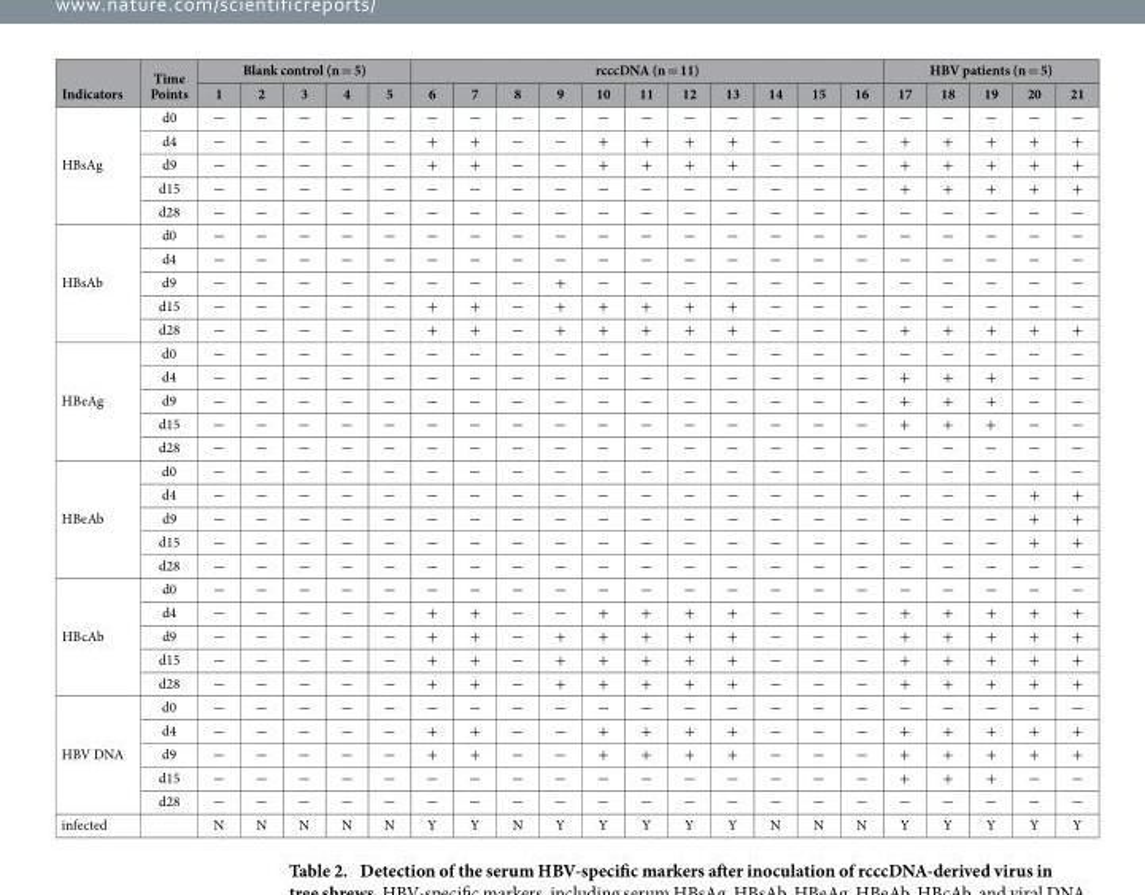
<table><thead><tr><td rowspan="2">Indicators</td><td rowspan="2">Time Points</td><td colspan="5">Blank control (n = 5)</td><td colspan="11">rcccDNA (n = 11)</td><td colspan="5">HBV patients (n = 5)</td></tr><tr><td>1</td><td>2</td><td>3</td><td>4</td><td>5</td><td>6</td><td>7</td><td>8</td><td>9</td><td>10</td><td>11</td><td>12</td><td>13</td><td>14</td><td>15</td><td>16</td><td>17</td><td>18</td><td>19</td><td>20</td><td>21</td></tr></thead><tbody><tr><td rowspan="5">HBsAg</td><td>d0</td><td>−</td><td>−</td><td>−</td><td>−</td><td>−</td><td>−</td><td>−</td><td>−</td><td>−</td><td>−</td><td>−</td><td>−</td><td>−</td><td>−</td><td>−</td><td>−</td><td>−</td><td>−</td><td>−</td><td>−</td><td>−</td></tr><tr><td>d4</td><td>−</td><td>−</td><td>−</td><td>−</td><td>−</td><td>+</td><td>+</td><td>−</td><td>−</td><td>+</td><td>+</td><td>+</td><td>+</td><td>−</td><td>−</td><td>−</td><td>+</td><td>+</td><td>+</td><td>+</td><td>+</td></tr><tr><td>d9</td><td>−</td><td>−</td><td>−</td><td>−</td><td>−</td><td>+</td><td>+</td><td>−</td><td>−</td><td>+</td><td>+</td><td>+</td><td>+</td><td>−</td><td>−</td><td>−</td><td>+</td><td>+</td><td>+</td><td>+</td><td>+</td></tr><tr><td>d15</td><td>−</td><td>−</td><td>−</td><td>−</td><td>−</td><td>−</td><td>−</td><td>−</td><td>−</td><td>−</td><td>−</td><td>−</td><td>−</td><td>−</td><td>−</td><td>−</td><td>+</td><td>+</td><td>+</td><td>+</td><td>+</td></tr><tr><td>d28</td><td>−</td><td>−</td><td>−</td><td>−</td><td>−</td><td>−</td><td>−</td><td>−</td><td>−</td><td>−</td><td>−</td><td>−</td><td>−</td><td>−</td><td>−</td><td>−</td><td>−</td><td>−</td><td>−</td><td>−</td><td>−</td></tr><tr><td rowspan="5">HBsAb</td><td>d0</td><td>−</td><td>−</td><td>−</td><td>−</td><td>−</td><td>−</td><td>−</td><td>−</td><td>−</td><td>−</td><td>−</td><td>−</td><td>−</td><td>−</td><td>−</td><td>−</td><td>−</td><td>−</td><td>−</td><td>−</td><td>−</td></tr><tr><td>d4</td><td>−</td><td>−</td><td>−</td><td>−</td><td>−</td><td>−</td><td>−</td><td>−</td><td>−</td><td>−</td><td>−</td><td>−</td><td>−</td><td>−</td><td>−</td><td>−</td><td>−</td><td>−</td><td>−</td><td>−</td><td>−</td></tr><tr><td>d9</td><td>−</td><td>−</td><td>−</td><td>−</td><td>−</td><td>−</td><td>−</td><td>−</td><td>+</td><td>−</td><td>−</td><td>−</td><td>−</td><td>−</td><td>−</td><td>−</td><td>−</td><td>−</td><td>−</td><td>−</td><td>−</td></tr><tr><td>d15</td><td>−</td><td>−</td><td>−</td><td>−</td><td>−</td><td>+</td><td>+</td><td>−</td><td>+</td><td>+</td><td>+</td><td>+</td><td>+</td><td>−</td><td>−</td><td>−</td><td>−</td><td>−</td><td>−</td><td>−</td><td>−</td></tr><tr><td>d28</td><td>−</td><td>−</td><td>−</td><td>−</td><td>−</td><td>+</td><td>+</td><td>−</td><td>+</td><td>+</td><td>+</td><td>+</td><td>+</td><td>−</td><td>−</td><td>−</td><td>+</td><td>+</td><td>+</td><td>+</td><td>+</td></tr><tr><td rowspan="5">HBeAg</td><td>d0</td><td>−</td><td>−</td><td>−</td><td>−</td><td>−</td><td>−</td><td>−</td><td>−</td><td>−</td><td>−</td><td>−</td><td>−</td><td>−</td><td>−</td><td>−</td><td>−</td><td>−</td><td>−</td><td>−</td><td>−</td><td>−</td></tr><tr><td>d4</td><td>−</td><td>−</td><td>−</td><td>−</td><td>−</td><td>−</td><td>−</td><td>−</td><td>−</td><td>−</td><td>−</td><td>−</td><td>−</td><td>−</td><td>−</td><td>−</td><td>+</td><td>+</td><td>+</td><td>−</td><td>−</td></tr><tr><td>d9</td><td>−</td><td>−</td><td>−</td><td>−</td><td>−</td><td>−</td><td>−</td><td>−</td><td>−</td><td>−</td><td>−</td><td>−</td><td>−</td><td>−</td><td>−</td><td>−</td><td>+</td><td>+</td><td>+</td><td>−</td><td>−</td></tr><tr><td>d15</td><td>−</td><td>−</td><td>−</td><td>−</td><td>−</td><td>−</td><td>−</td><td>−</td><td>−</td><td>−</td><td>−</td><td>−</td><td>−</td><td>−</td><td>−</td><td>−</td><td>+</td><td>+</td><td>+</td><td>−</td><td>−</td></tr><tr><td>d28</td><td>−</td><td>−</td><td>−</td><td>−</td><td>−</td><td>−</td><td>−</td><td>−</td><td>−</td><td>−</td><td>−</td><td>−</td><td>−</td><td>−</td><td>−</td><td>−</td><td>−</td><td>−</td><td>−</td><td>−</td><td>−</td></tr><tr><td rowspan="5">HBeAb</td><td>d0</td><td>−</td><td>−</td><td>−</td><td>−</td><td>−</td><td>−</td><td>−</td><td>−</td><td>−</td><td>−</td><td>−</td><td>−</td><td>−</td><td>−</td><td>−</td><td>−</td><td>−</td><td>−</td><td>−</td><td>−</td><td>−</td></tr><tr><td>d4</td><td>−</td><td>−</td><td>−</td><td>−</td><td>−</td><td>−</td><td>−</td><td>−</td><td>−</td><td>−</td><td>−</td><td>−</td><td>−</td><td>−</td><td>−</td><td>−</td><td>−</td><td>−</td><td>−</td><td>+</td><td>+</td></tr><tr><td>d9</td><td>−</td><td>−</td><td>−</td><td>−</td><td>−</td><td>−</td><td>−</td><td>−</td><td>−</td><td>−</td><td>−</td><td>−</td><td>−</td><td>−</td><td>−</td><td>−</td><td>−</td><td>−</td><td>−</td><td>+</td><td>+</td></tr><tr><td>d15</td><td>−</td><td>−</td><td>−</td><td>−</td><td>−</td><td>−</td><td>−</td><td>−</td><td>−</td><td>−</td><td>−</td><td>−</td><td>−</td><td>−</td><td>−</td><td>−</td><td>−</td><td>−</td><td>−</td><td>+</td><td>+</td></tr><tr><td>d28</td><td>−</td><td>−</td><td>−</td><td>−</td><td>−</td><td>−</td><td>−</td><td>−</td><td>−</td><td>−</td><td>−</td><td>−</td><td>−</td><td>−</td><td>−</td><td>−</td><td>−</td><td>−</td><td>−</td><td>−</td><td>−</td></tr><tr><td rowspan="5">HBcAb</td><td>d0</td><td>−</td><td>−</td><td>−</td><td>−</td><td>−</td><td>−</td><td>−</td><td>−</td><td>−</td><td>−</td><td>−</td><td>−</td><td>−</td><td>−</td><td>−</td><td>−</td><td>−</td><td>−</td><td>−</td><td>−</td><td>−</td></tr><tr><td>d4</td><td>−</td><td>−</td><td>−</td><td>−</td><td>−</td><td>+</td><td>+</td><td>−</td><td>−</td><td>+</td><td>+</td><td>+</td><td>+</td><td>−</td><td>−</td><td>−</td><td>+</td><td>+</td><td>+</td><td>+</td><td>+</td></tr><tr><td>d9</td><td>−</td><td>−</td><td>−</td><td>−</td><td>−</td><td>+</td><td>+</td><td>−</td><td>+</td><td>+</td><td>+</td><td>+</td><td>+</td><td>−</td><td>−</td><td>−</td><td>+</td><td>+</td><td>+</td><td>+</td><td>+</td></tr><tr><td>d15</td><td>−</td><td>−</td><td>−</td><td>−</td><td>−</td><td>+</td><td>+</td><td>−</td><td>+</td><td>+</td><td>+</td><td>+</td><td>+</td><td>−</td><td>−</td><td>−</td><td>+</td><td>+</td><td>+</td><td>+</td><td>+</td></tr><tr><td>d28</td><td>−</td><td>−</td><td>−</td><td>−</td><td>−</td><td>+</td><td>+</td><td>−</td><td>+</td><td>+</td><td>+</td><td>+</td><td>+</td><td>−</td><td>−</td><td>−</td><td>+</td><td>+</td><td>+</td><td>+</td><td>+</td></tr><tr><td rowspan="5">HBV DNA</td><td>d0</td><td>−</td><td>−</td><td>−</td><td>−</td><td>−</td><td>−</td><td>−</td><td>−</td><td>−</td><td>−</td><td>−</td><td>−</td><td>−</td><td>−</td><td>−</td><td>−</td><td>−</td><td>−</td><td>−</td><td>−</td><td>−</td></tr><tr><td>d4</td><td>−</td><td>−</td><td>−</td><td>−</td><td>−</td><td>+</td><td>+</td><td>−</td><td>−</td><td>+</td><td>+</td><td>+</td><td>+</td><td>−</td><td>−</td><td>−</td><td>+</td><td>+</td><td>+</td><td>+</td><td>+</td></tr><tr><td>d9</td><td>−</td><td>−</td><td>−</td><td>−</td><td>−</td><td>+</td><td>+</td><td>−</td><td>−</td><td>+</td><td>+</td><td>+</td><td>+</td><td>−</td><td>−</td><td>−</td><td>+</td><td>+</td><td>+</td><td>+</td><td>+</td></tr><tr><td>d15</td><td>−</td><td>−</td><td>−</td><td>−</td><td>−</td><td>−</td><td>−</td><td>−</td><td>−</td><td>−</td><td>−</td><td>−</td><td>−</td><td>−</td><td>−</td><td>−</td><td>+</td><td>+</td><td>+</td><td>−</td><td>−</td></tr><tr><td>d28</td><td>−</td><td>−</td><td>−</td><td>−</td><td>−</td><td>−</td><td>−</td><td>−</td><td>−</td><td>−</td><td>−</td><td>−</td><td>−</td><td>−</td><td>−</td><td>−</td><td>−</td><td>−</td><td>−</td><td>−</td><td>−</td></tr><tr><td>infected</td><td></td><td>N</td><td>N</td><td>N</td><td>N</td><td>N</td><td>Y</td><td>Y</td><td>N</td><td>Y</td><td>Y</td><td>Y</td><td>Y</td><td>Y</td><td>N</td><td>N</td><td>N</td><td>Y</td><td>Y</td><td>Y</td><td>Y</td><td>Y</td></tr></tbody></table>